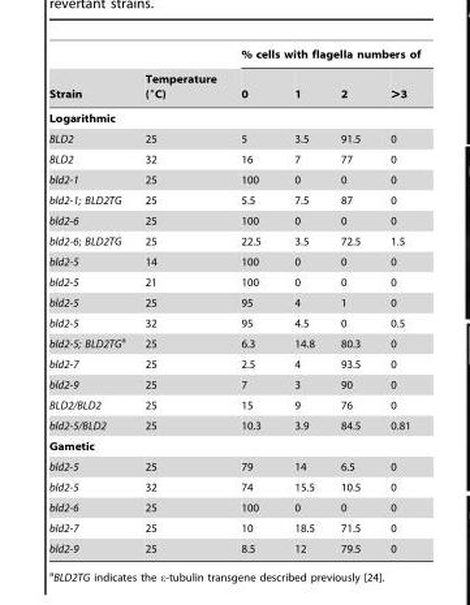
<table><thead><tr><td rowspan="2">Strain</td><td rowspan="2">Temperature (°C)</td><td colspan="4">% cells with flagella numbers of</td></tr><tr><td>0</td><td>1</td><td>2</td><td>&gt;3</td></tr></thead><tbody><tr><td colspan="6">Logarithmic</td></tr><tr><td>BLD2</td><td>25</td><td>5</td><td>3.5</td><td>91.5</td><td>0</td></tr><tr><td>BLD2</td><td>32</td><td>16</td><td>7</td><td>77</td><td>0</td></tr><tr><td>bld2-1</td><td>25</td><td>100</td><td>0</td><td>0</td><td>0</td></tr><tr><td>bld2-1; BLD2TG</td><td>25</td><td>5.5</td><td>7.5</td><td>87</td><td>0</td></tr><tr><td>bld2-6</td><td>25</td><td>100</td><td>0</td><td>0</td><td>0</td></tr><tr><td>bld2-6; BLD2TG</td><td>25</td><td>22.5</td><td>3.5</td><td>72.5</td><td>1.5</td></tr><tr><td>bld2-5</td><td>14</td><td>100</td><td>0</td><td>0</td><td>0</td></tr><tr><td>bld2-5</td><td>21</td><td>100</td><td>0</td><td>0</td><td>0</td></tr><tr><td>bld2-5</td><td>25</td><td>95</td><td>4</td><td>1</td><td>0</td></tr><tr><td>bld2-5</td><td>32</td><td>95</td><td>4.5</td><td>0</td><td>0.5</td></tr><tr><td>bld2-5; BLD2TGa</td><td>25</td><td>6.3</td><td>14.8</td><td>80.3</td><td>0</td></tr><tr><td>bld2-7</td><td>25</td><td>2.5</td><td>4</td><td>93.5</td><td>0</td></tr><tr><td>bld2-9</td><td>25</td><td>7</td><td>3</td><td>90</td><td>0</td></tr><tr><td>BLD2/BLD2</td><td>25</td><td>15</td><td>9</td><td>76</td><td>0</td></tr><tr><td>bld2-5/BLD2</td><td>25</td><td>10.3</td><td>3.9</td><td>84.5</td><td>0.81</td></tr><tr><td colspan="6">Gametic</td></tr><tr><td>bld2-5</td><td>25</td><td>79</td><td>14</td><td>6.5</td><td>0</td></tr><tr><td>bld2-5</td><td>32</td><td>74</td><td>15.5</td><td>10.5</td><td>0</td></tr><tr><td>bld2-6</td><td>25</td><td>100</td><td>0</td><td>0</td><td>0</td></tr><tr><td>bld2-7</td><td>25</td><td>10</td><td>18.5</td><td>71.5</td><td>0</td></tr><tr><td>bld2-9</td><td>25</td><td>8.5</td><td>12</td><td>79.5</td><td>0</td></tr></tbody></table>